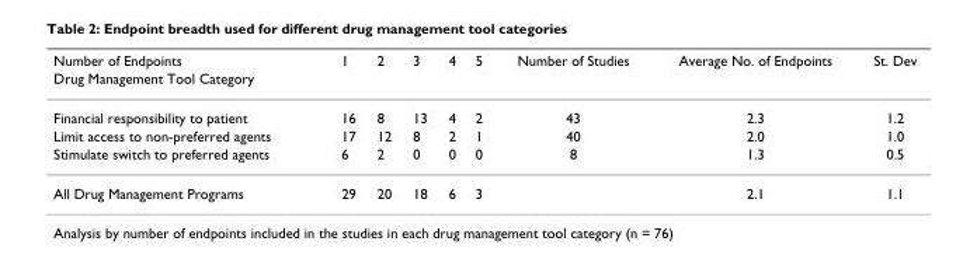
<table><thead><tr><td rowspan="2">Number of Endpoints Drug Management Tool Category</td><td rowspan="2">1</td><td rowspan="2">2</td><td rowspan="2">3</td><td rowspan="2">4</td><td rowspan="2">5</td><td rowspan="2">Number of Studies</td><td rowspan="2">Average No. of Endpoints</td><td rowspan="2">St. Dev</td></tr><tr></tr></thead><tbody><tr><td>Financial responsibility to patient</td><td>16</td><td>8</td><td>13</td><td>4</td><td>2</td><td>43</td><td>2.3</td><td>1.2</td></tr><tr><td>Limit access to non-preferred agents</td><td>17</td><td>12</td><td>8</td><td>2</td><td>1</td><td>40</td><td>2.0</td><td>1.0</td></tr><tr><td>Stimulate switch to preferred agents</td><td>6</td><td>2</td><td>0</td><td>0</td><td>0</td><td>8</td><td>1.3</td><td>0.5</td></tr><tr><td>All Drug Management Programs</td><td>29</td><td>20</td><td>18</td><td>6</td><td>3</td><td></td><td>2.1</td><td>1.1</td></tr></tbody></table>